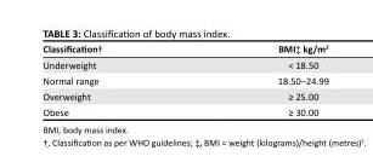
<table><thead><tr><td>Classification†</td><td>BMI‡ kg/m<sup>2</sup></td></tr></thead><tbody><tr><td>Underweight</td><td>&lt; 18.50</td></tr><tr><td>Normal range</td><td>18.50─24.99</td></tr><tr><td>Overweight</td><td>≥ 25.00</td></tr><tr><td>Obese</td><td>≥ 30.00</td></tr></tbody></table>